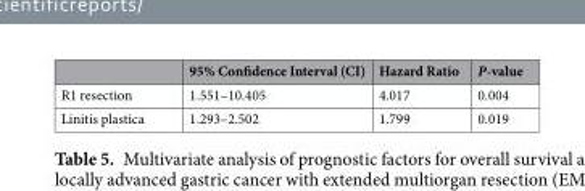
<table><thead><tr><td></td><td>95% Confidence Interval (CI)</td><td>Hazard Ratio</td><td>P-value</td></tr></thead><tbody><tr><td>R1 resection</td><td>1.551–10.405</td><td>4.017</td><td>0.004</td></tr><tr><td>Linitis plastica</td><td>1.293–2.502</td><td>1.799</td><td>0.019</td></tr></tbody></table>